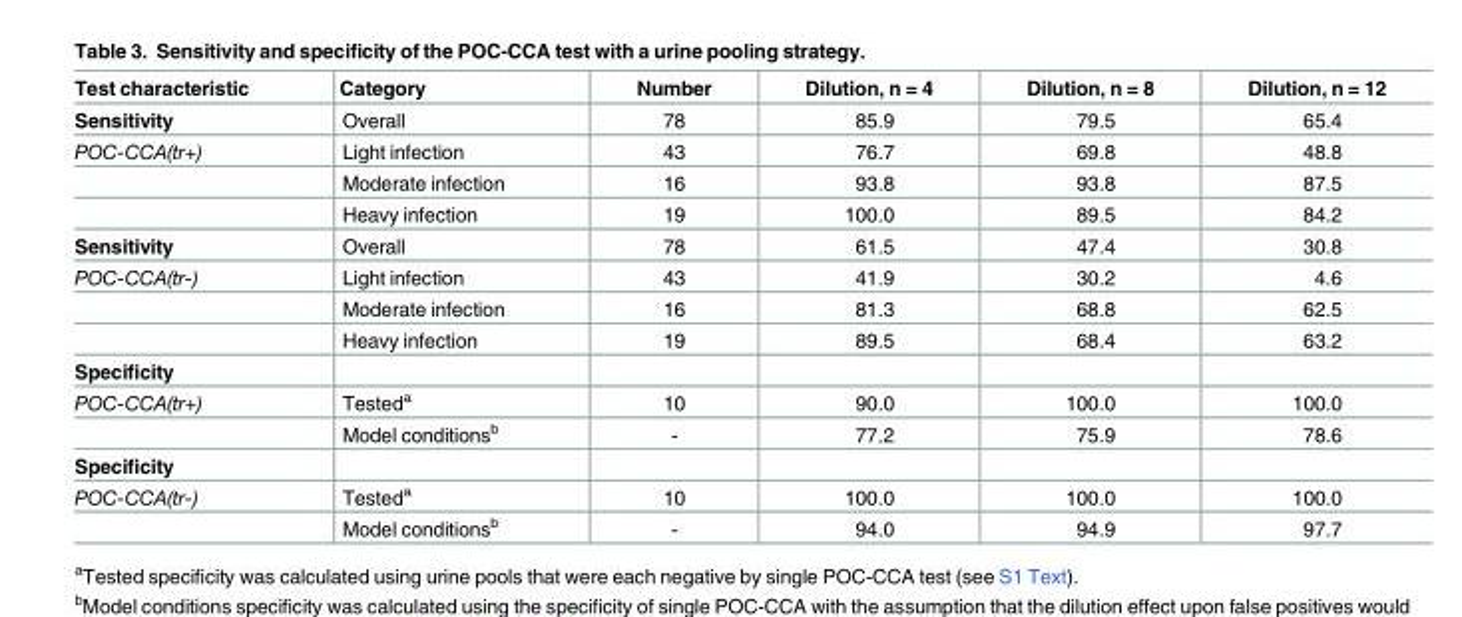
<table><thead><tr><td>Test characteristic</td><td>Category</td><td>Number</td><td>Dilution, n = 4</td><td>Dilution, n = 8</td><td>Dilution, n = 12</td></tr></thead><tbody><tr><td>Sensitivity</td><td>Overall</td><td>78</td><td>85.9</td><td>79.5</td><td>65.4</td></tr><tr><td rowspan="3">POC-CCA(tr+)</td><td>Light infection</td><td>43</td><td>76.7</td><td>69.8</td><td>48.8</td></tr><tr><td>Moderate infection</td><td>16</td><td>93.8</td><td>93.8</td><td>87.5</td></tr><tr><td>Heavy infection</td><td>19</td><td>100.0</td><td>89.5</td><td>84.2</td></tr><tr><td>Sensitivity</td><td>Overall</td><td>78</td><td>61.5</td><td>47.4</td><td>30.8</td></tr><tr><td rowspan="3">POC-CCA(tr-)</td><td>Light infection</td><td>43</td><td>41.9</td><td>30.2</td><td>4.6</td></tr><tr><td>Moderate infection</td><td>16</td><td>81.3</td><td>68.8</td><td>62.5</td></tr><tr><td>Heavy infection</td><td>19</td><td>89.5</td><td>68.4</td><td>63.2</td></tr><tr><td colspan="6">Specificity</td></tr><tr><td rowspan="2">POC-CCA(tr+)</td><td>Tested<sup>a</sup></td><td>10</td><td>90.0</td><td>100.0</td><td>100.0</td></tr><tr><td>Model conditions<sup>b</sup></td><td>-</td><td>77.2</td><td>75.9</td><td>78.6</td></tr><tr><td colspan="6">Specificity</td></tr><tr><td rowspan="2">POC-CCA(tr-)</td><td>Tested<sup>a</sup></td><td>10</td><td>100.0</td><td>100.0</td><td>100.0</td></tr><tr><td>Model conditions<sup>b</sup></td><td>-</td><td>94.0</td><td>94.9</td><td>97.7</td></tr></tbody></table>